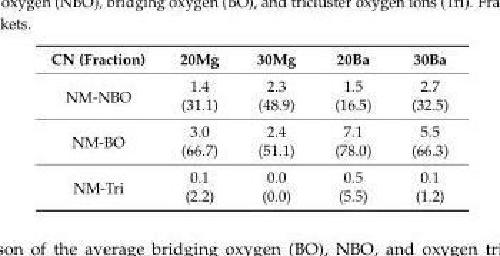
<table><thead><tr><td>CN (Fraction)</td><td>20Mg</td><td>30Mg</td><td>20Ba</td><td>30Ba</td></tr></thead><tbody><tr><td rowspan="2">NM-NBO</td><td>1.4</td><td>2.3</td><td>1.5</td><td>2.7</td></tr><tr><td>(31.1)</td><td>(48.9)</td><td>(16.5)</td><td>(32.5)</td></tr><tr><td rowspan="2">NM-BO</td><td>3.0</td><td>2.4</td><td>7.1</td><td>5.5</td></tr><tr><td>(66.7)</td><td>(51.1)</td><td>(78.0)</td><td>(66.3)</td></tr><tr><td rowspan="2">NM-Tri</td><td>0.1</td><td>0.0</td><td>0.5</td><td>0.1</td></tr><tr><td>(2.2)</td><td>(0.0)</td><td>(5.5)</td><td>(1.2)</td></tr></tbody></table>